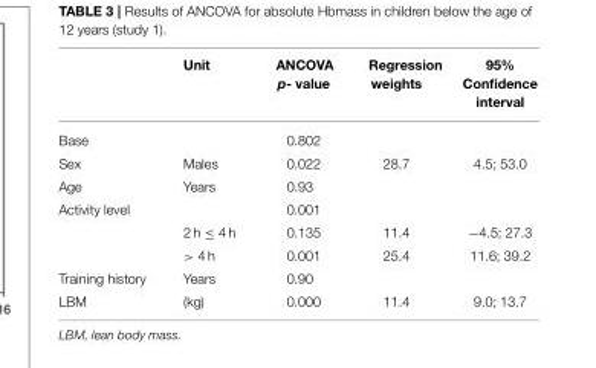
<table><thead><tr><td></td><td>Unit</td><td>ANCOVA p- value</td><td>Regression weights</td><td>95% Confidence interval</td></tr></thead><tbody><tr><td>Base</td><td></td><td>0.802</td><td></td><td></td></tr><tr><td>Sex</td><td>Males</td><td>0.022</td><td>28.7</td><td>4.5; 53.0</td></tr><tr><td>Age</td><td>Years</td><td>0.93</td><td></td><td></td></tr><tr><td rowspan="3">Activity level</td><td></td><td>0.001</td><td></td><td></td></tr><tr><td>2 h ≤ 4 h</td><td>0.135</td><td>11.4</td><td>−4.5; 27.3</td></tr><tr><td>&gt; 4 h</td><td>0.001</td><td>25.4</td><td>11.6; 39.2</td></tr><tr><td>Training history</td><td>Years</td><td>0.90</td><td></td><td></td></tr><tr><td>LBM</td><td>(kg)</td><td>0.000</td><td>11.4</td><td>9.0; 13.7</td></tr></tbody></table>